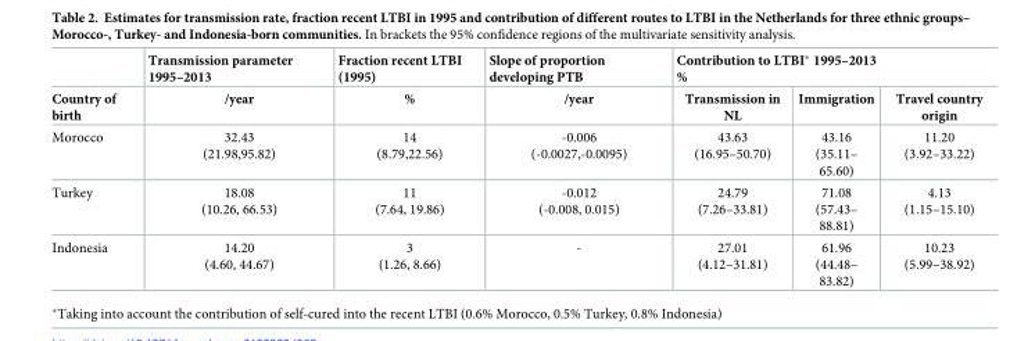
<table><thead><tr><td rowspan="2">Country of birth</td><td rowspan="2">Transmission parameter 1995–2013 /year</td><td rowspan="2">Fraction recent LTBI (1995) %</td><td rowspan="2">Slope of proportion developing PTB /year</td><td colspan="3">Contribution to LTBI* 1995–2013 %</td></tr><tr><td>Transmission in NL</td><td>Immigration</td><td>Travel country origin</td></tr></thead><tbody><tr><td>Morocco</td><td>32.43 (21.98,95.82)</td><td>14 (8.79,22.56)</td><td>-0.006 (-0.0027,-0.0095)</td><td>43.63 (16.95–50.70)</td><td>43.16 (35.11– 65.60)</td><td>11.20 (3.92–33.22)</td></tr><tr><td>Turkey</td><td>18.08 (10.26, 66.53)</td><td>11 (7.64, 19.86)</td><td>-0.012 (-0.008, 0.015)</td><td>24.79 (7.26–33.81)</td><td>71.08 (57.43– 88.81)</td><td>4.13 (1.15–15.10)</td></tr><tr><td>Indonesia</td><td>14.20 (4.60, 44.67)</td><td>3 (1.26, 8.66)</td><td>-</td><td>27.01 (4.12–31.81)</td><td>61.96 (44.48– 83.82)</td><td>10.23 (5.99–38.92)</td></tr></tbody></table>